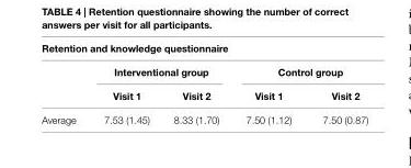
<table><thead><tr><td colspan="5">retention and knowledge questionnaire</td></tr><tr><td rowspan="2"></td><td colspan="2">interventional group</td><td colspan="2">control group</td></tr><tr><td>Visit 1</td><td>Visit 2</td><td>Visit 1</td><td>Visit 2</td></tr></thead><tbody><tr><td>Average</td><td>7.53 (1.45)</td><td>8.33 (1.70)</td><td>7.50 (1.12)</td><td>7.50 (0.87)</td></tr></tbody></table>